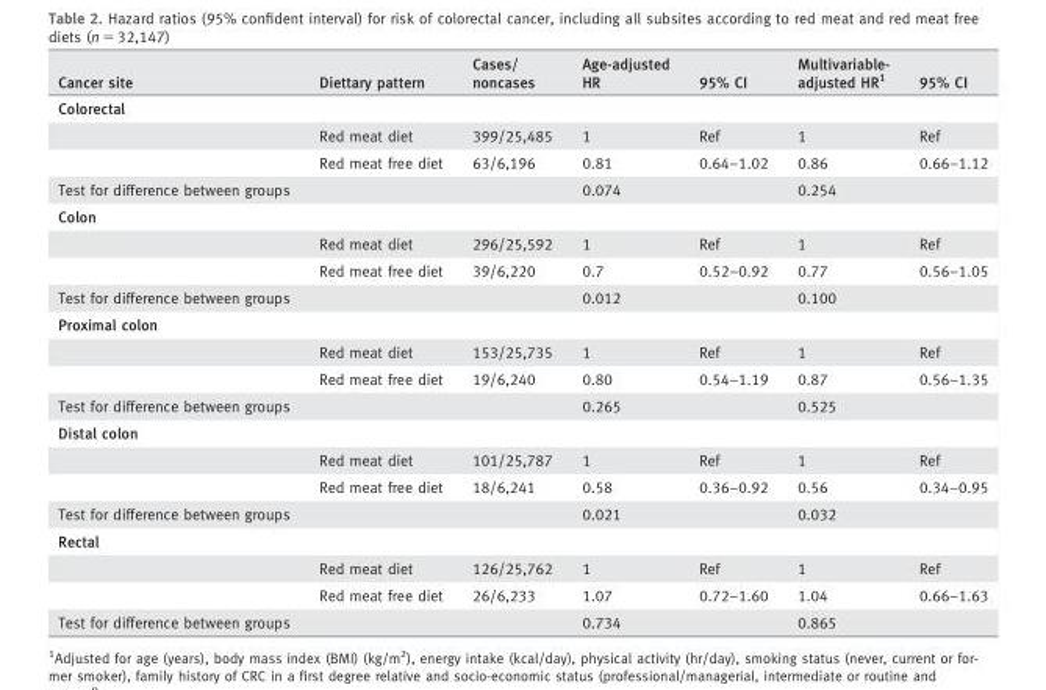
<table><thead><tr><td>Cancer site</td><td>Diettary pattern</td><td>Cases/ noncases</td><td>Age-adjusted HR</td><td>95% CI</td><td>Multivariable- adjusted HR1</td><td>95% CI</td></tr></thead><tbody><tr><td colspan="7">Colorectal</td></tr><tr><td></td><td>Red meat diet</td><td>399/25,485</td><td>1</td><td>Ref</td><td>1</td><td>Ref</td></tr><tr><td></td><td>Red meat free diet</td><td>63/6,196</td><td>0.81</td><td>0.64–1.02</td><td>0.86</td><td>0.66–1.12</td></tr><tr><td>Test for difference between groups</td><td></td><td></td><td>0.074</td><td></td><td>0.254</td><td></td></tr><tr><td colspan="7">Colon</td></tr><tr><td></td><td>Red meat diet</td><td>296/25,592</td><td>1</td><td>Ref</td><td>1</td><td>Ref</td></tr><tr><td></td><td>Red meat free diet</td><td>39/6,220</td><td>0.7</td><td>0.52–0.92</td><td>0.77</td><td>0.56–1.05</td></tr><tr><td>Test for difference between groups</td><td></td><td></td><td>0.012</td><td></td><td>0.100</td><td></td></tr><tr><td colspan="7">Proximal colon</td></tr><tr><td></td><td>Red meat diet</td><td>153/25,735</td><td>1</td><td>Ref</td><td>1</td><td>Ref</td></tr><tr><td></td><td>Red meat free diet</td><td>19/6,240</td><td>0.80</td><td>0.54–1.19</td><td>0.87</td><td>0.56–1.35</td></tr><tr><td>Test for difference between groups</td><td></td><td></td><td>0.265</td><td></td><td>0.525</td><td></td></tr><tr><td colspan="7">Distal colon</td></tr><tr><td></td><td>Red meat diet</td><td>101/25,787</td><td>1</td><td>Ref</td><td>1</td><td>Ref</td></tr><tr><td></td><td>Red meat free diet</td><td>18/6,241</td><td>0.58</td><td>0.36–0.92</td><td>0.56</td><td>0.34–0.95</td></tr><tr><td>Test for difference between groups</td><td></td><td></td><td>0.021</td><td></td><td>0.032</td><td></td></tr><tr><td colspan="7">Rectal</td></tr><tr><td></td><td>Red meat diet</td><td>126/25,762</td><td>1</td><td>Ref</td><td>1</td><td>Ref</td></tr><tr><td></td><td>Red meat free diet</td><td>26/6,233</td><td>1.07</td><td>0.72–1.60</td><td>1.04</td><td>0.66–1.63</td></tr><tr><td>Test for difference between groups</td><td></td><td></td><td>0.734</td><td></td><td>0.865</td><td></td></tr></tbody></table>